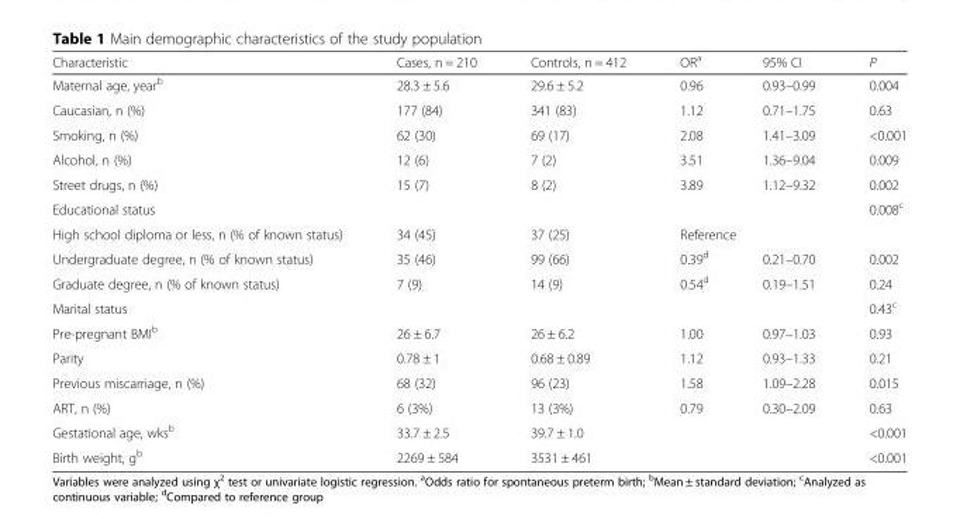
<table><thead><tr><td>Characteristic</td><td>Cases, n = 210</td><td>Controls, n = 412</td><td>OR<sup>a</sup></td><td>95% CI</td><td>P</td></tr></thead><tbody><tr><td>Maternal age, year<sup>b</sup></td><td>28.3 ± 5.6</td><td>29.6 ± 5.2</td><td>0.96</td><td>0.93–0.99</td><td>0.004</td></tr><tr><td>Caucasian, n (%)</td><td>177 (84)</td><td>341 (83)</td><td>1.12</td><td>0.71–1.75</td><td>0.63</td></tr><tr><td>Smoking, n (%)</td><td>62 (30)</td><td>69 (17)</td><td>2.08</td><td>1.41–3.09</td><td>&lt;0.001</td></tr><tr><td>Alcohol, n (%)</td><td>12 (6)</td><td>7 (2)</td><td>3.51</td><td>1.36–9.04</td><td>0.009</td></tr><tr><td>Street drugs, n (%)</td><td>15 (7)</td><td>8 (2)</td><td>3.89</td><td>1.12–9.32</td><td>0.002</td></tr><tr><td>Educational status</td><td colspan="4"></td><td>0.008<sup>c</sup></td></tr><tr><td>High school diploma or less, n (% of known status)</td><td>34 (45)</td><td>37 (25)</td><td colspan="3">Reference</td></tr><tr><td>Undergraduate degree, n (% of known status)</td><td>35 (46)</td><td>99 (66)</td><td>0.39<sup>d</sup></td><td>0.21–0.70</td><td>0.002</td></tr><tr><td>Graduate degree, n (% of known status)</td><td>7 (9)</td><td>14 (9)</td><td>0.54<sup>d</sup></td><td>0.19–1.51</td><td>0.24</td></tr><tr><td>Marital status</td><td colspan="4"></td><td>0.43<sup>c</sup></td></tr><tr><td>Pre-pregnant BMI<sup>b</sup></td><td>26 ± 6.7</td><td>26 ± 6.2</td><td>1.00</td><td>0.97–1.03</td><td>0.93</td></tr><tr><td>Parity</td><td>0.78 ± 1</td><td>0.68 ± 0.89</td><td>1.12</td><td>0.93–1.33</td><td>0.21</td></tr><tr><td>Previous miscarriage, n (%)</td><td>68 (32)</td><td>96 (23)</td><td>1.58</td><td>1.09–2.28</td><td>0.015</td></tr><tr><td>ART, n (%)</td><td>6 (3%)</td><td>13 (3%)</td><td>0.79</td><td>0.30–2.09</td><td>0.63</td></tr><tr><td>Gestational age, wks<sup>b</sup></td><td>33.7 ± 2.5</td><td>39.7 ± 1.0</td><td colspan="2"></td><td>&lt;0.001</td></tr><tr><td>Birth weight, g<sup>b</sup></td><td>2269 ± 584</td><td>3531 ± 461</td><td colspan="2"></td><td>&lt;0.001</td></tr></tbody></table>